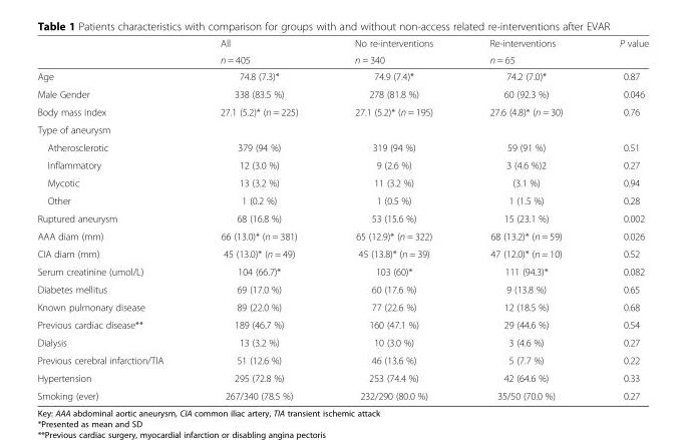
<table><thead><tr><td rowspan="2"></td><td rowspan="2">All n = 405</td><td rowspan="2">No re-interventions n = 340</td><td rowspan="2">Re-interventions n = 65</td><td rowspan="2">P value</td></tr><tr></tr></thead><tbody><tr><td>Age</td><td>74.8 (7.3)*</td><td>74.9 (7.4)*</td><td>74.2 (7.0)*</td><td>0.87</td></tr><tr><td>Male Gender</td><td>338 (83.5 %)</td><td>278 (81.8 %)</td><td>60 (92.3 %)</td><td>0.046</td></tr><tr><td>Body mass index</td><td>27.1 (5.2)* (n = 225)</td><td>27.1 (5.2)* (n = 195)</td><td>27.6 (4.8)* (n = 30)</td><td>0.76</td></tr><tr><td colspan="5">Type of aneurysm</td></tr><tr><td>Atherosclerotic</td><td>379 (94 %)</td><td>319 (94 %)</td><td>59 (91 %)</td><td>0.51</td></tr><tr><td>Inflammatory</td><td>12 (3.0 %)</td><td>9 (2.6 %)</td><td>3 (4.6 %)2</td><td>0.27</td></tr><tr><td>Mycotic</td><td>13 (3.2 %)</td><td>11 (3.2 %)</td><td>(3.1 %)</td><td>0.94</td></tr><tr><td>Other</td><td>1 (0.2 %)</td><td>1 (0.5 %)</td><td>1 (1.5 %)</td><td>0.28</td></tr><tr><td>Ruptured aneurysm</td><td>68 (16.8 %)</td><td>53 (15.6 %)</td><td>15 (23.1 %)</td><td>0.002</td></tr><tr><td>AAA diam (mm)</td><td>66 (13.0)* (n = 381)</td><td>65 (12.9)* (n = 322)</td><td>68 (13.2)* (n = 59)</td><td>0.026</td></tr><tr><td>CIA diam (mm)</td><td>45 (13.0)* (n = 49)</td><td>45 (13.8)* (n = 39)</td><td>47 (12.0)* (n = 10)</td><td>0.52</td></tr><tr><td>Serum creatinine (umol/L)</td><td>104 (66.7)*</td><td>103 (60)*</td><td>111 (94.3)*</td><td>0.082</td></tr><tr><td>Diabetes mellitus</td><td>69 (17.0 %)</td><td>60 (17.6 %)</td><td>9 (13.8 %)</td><td>0.65</td></tr><tr><td>Known pulmonary disease</td><td>89 (22.0 %)</td><td>77 (22.6 %)</td><td>12 (18.5 %)</td><td>0.68</td></tr><tr><td>Previous cardiac disease**</td><td>189 (46.7 %)</td><td>160 (47.1 %)</td><td>29 (44.6 %)</td><td>0.54</td></tr><tr><td>Dialysis</td><td>13 (3.2 %)</td><td>10 (3.0 %)</td><td>3 (4.6 %)</td><td>0.27</td></tr><tr><td>Previous cerebral infarction/TIA</td><td>51 (12.6 %)</td><td>46 (13.6 %)</td><td>5 (7.7 %)</td><td>0.22</td></tr><tr><td>Hypertension</td><td>295 (72.8 %)</td><td>253 (74.4 %)</td><td>42 (64.6 %)</td><td>0.33</td></tr><tr><td>Smoking (ever)</td><td>267/340 (78.5 %)</td><td>232/290 (80.0 %)</td><td>35/50 (70.0 %)</td><td>0.27</td></tr></tbody></table>